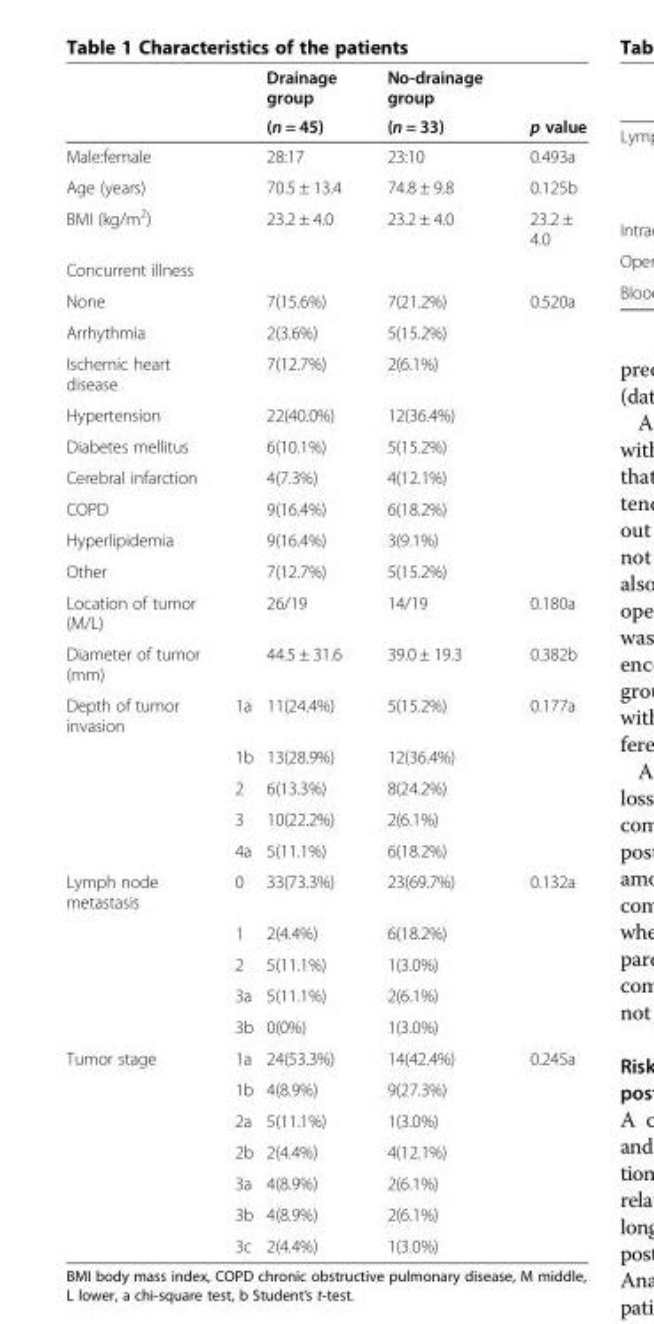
<table><thead><tr><td rowspan="2"></td><td rowspan="2"></td><td rowspan="2">Drainage group (n = 45)</td><td rowspan="2">No-drainage group (n = 33)</td><td rowspan="2">p value</td></tr><tr></tr></thead><tbody><tr><td>Male:female</td><td></td><td>28:17</td><td>23:10</td><td>0.493a</td></tr><tr><td>Age (years)</td><td></td><td>70.5 ± 13.4</td><td>74.8 ± 9.8</td><td>0.125b</td></tr><tr><td>BMI (kg/m<sup>2</sup>)</td><td></td><td>23.2 ± 4.0</td><td>23.2 ± 4.0</td><td>23.2 ± 4.0</td></tr><tr><td colspan="5">Concurrent illness</td></tr><tr><td>None</td><td></td><td>7(15.6%)</td><td>7(21.2%)</td><td>0.520a</td></tr><tr><td>Arrhythmia</td><td></td><td>2(3.6%)</td><td>5(15.2%)</td><td></td></tr><tr><td>Ischemic heart disease</td><td></td><td>7(12.7%)</td><td>2(6.1%)</td><td></td></tr><tr><td>Hypertension</td><td></td><td>22(40.0%)</td><td>12(36.4%)</td><td></td></tr><tr><td>Diabetes mellitus</td><td></td><td>6(10.1%)</td><td>5(15.2%)</td><td></td></tr><tr><td>Cerebral infarction</td><td></td><td>4(7.3%)</td><td>4(12.1%)</td><td></td></tr><tr><td>COPD</td><td></td><td>9(16.4%)</td><td>6(18.2%)</td><td></td></tr><tr><td>Hyperlipidemia</td><td></td><td>9(16.4%)</td><td>3(9.1%)</td><td></td></tr><tr><td>Other</td><td></td><td>7(12.7%)</td><td>5(15.2%)</td><td></td></tr><tr><td>Location of tumor (M/L)</td><td></td><td>26/19</td><td>14/19</td><td>0.180a</td></tr><tr><td>Diameter of tumor (mm)</td><td></td><td>44.5 ± 31.6</td><td>39.0 ± 19.3</td><td>0.382b</td></tr><tr><td rowspan="5">Depth of tumor invasion</td><td>1a</td><td>11(24.4%)</td><td>5(15.2%)</td><td>0.177a</td></tr><tr><td>1b</td><td>13(28.9%)</td><td>12(36.4%)</td><td></td></tr><tr><td>2</td><td>6(13.3%)</td><td>8(24.2%)</td><td></td></tr><tr><td>3</td><td>10(22.2%)</td><td>2(6.1%)</td><td></td></tr><tr><td>4a</td><td>5(11.1%)</td><td>6(18.2%)</td><td></td></tr><tr><td rowspan="5">Lymph node metastasis</td><td>0</td><td>33(73.3%)</td><td>23(69.7%)</td><td>0.132a</td></tr><tr><td>1</td><td>2(4.4%)</td><td>6(18.2%)</td><td></td></tr><tr><td>2</td><td>5(11.1%)</td><td>1(3.0%)</td><td></td></tr><tr><td>3a</td><td>5(11.1%)</td><td>2(6.1%)</td><td></td></tr><tr><td>3b</td><td>0(0%)</td><td>1(3.0%)</td><td></td></tr><tr><td rowspan="7">Tumor stage</td><td>1a</td><td>24(53.3%)</td><td>14(42.4%)</td><td>0.245a</td></tr><tr><td>1b</td><td>4(8.9%)</td><td>9(27.3%)</td><td></td></tr><tr><td>2a</td><td>5(11.1%)</td><td>1(3.0%)</td><td></td></tr><tr><td>2b</td><td>2(4.4%)</td><td>4(12.1%)</td><td></td></tr><tr><td>3a</td><td>4(8.9%)</td><td>2(6.1%)</td><td></td></tr><tr><td>3b</td><td>4(8.9%)</td><td>2(6.1%)</td><td></td></tr><tr><td>3c</td><td>2(4.4%)</td><td>1(3.0%)</td><td></td></tr></tbody></table>